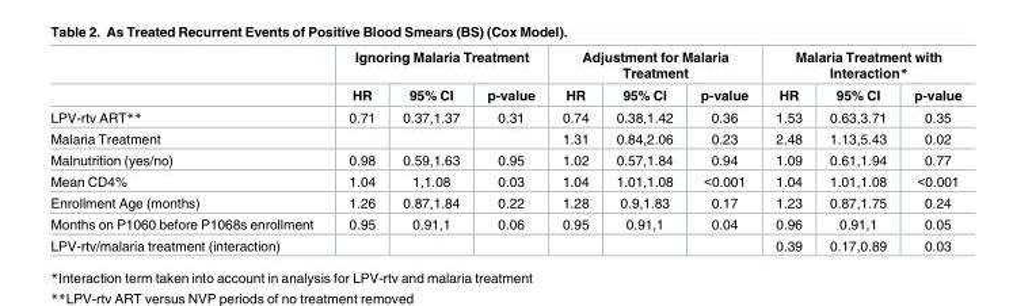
<table><thead><tr><td rowspan="2"></td><td colspan="3">Ignoring Malaria Treatment</td><td colspan="3">Adjustment for Malaria Treatment</td><td colspan="3">Malaria Treatment with Interaction*</td></tr><tr><td>HR</td><td>95% CI</td><td>p-value</td><td>HR</td><td>95% CI</td><td>p-value</td><td>HR</td><td>95% CI</td><td>p-value</td></tr></thead><tbody><tr><td>LPV-rtv ART**</td><td>0.71</td><td>0.37,1.37</td><td>0.31</td><td>0.74</td><td>0.38,1.42</td><td>0.36</td><td>1.53</td><td>0.63,3.71</td><td>0.35</td></tr><tr><td>Malaria Treatment</td><td></td><td></td><td></td><td>1.31</td><td>0.84,2.06</td><td>0.23</td><td>2.48</td><td>1.13,5.43</td><td>0.02</td></tr><tr><td>Malnutrition (yes/no)</td><td>0.98</td><td>0.59,1.63</td><td>0.95</td><td>1.02</td><td>0.57,1.84</td><td>0.94</td><td>1.09</td><td>0.61,1.94</td><td>0.77</td></tr><tr><td>Mean CD4%</td><td>1.04</td><td>1,1.08</td><td>0.03</td><td>1.04</td><td>1.01,1.08</td><td>&lt;0.001</td><td>1.04</td><td>1.01,1.08</td><td>&lt;0.001</td></tr><tr><td>Enrollment Age (months)</td><td>1.26</td><td>0.87,1.84</td><td>0.22</td><td>1.28</td><td>0.9,1.83</td><td>0.17</td><td>1.23</td><td>0.87,1.75</td><td>0.24</td></tr><tr><td>Months on P1060 before P1068s enrollment</td><td>0.95</td><td>0.91,1</td><td>0.06</td><td>0.95</td><td>0.91,1</td><td>0.04</td><td>0.96</td><td>0.91,1</td><td>0.05</td></tr><tr><td>LPV-rtv/malaria treatment (interaction)</td><td></td><td></td><td></td><td></td><td></td><td></td><td>0.39</td><td>0.17,0.89</td><td>0.03</td></tr></tbody></table>